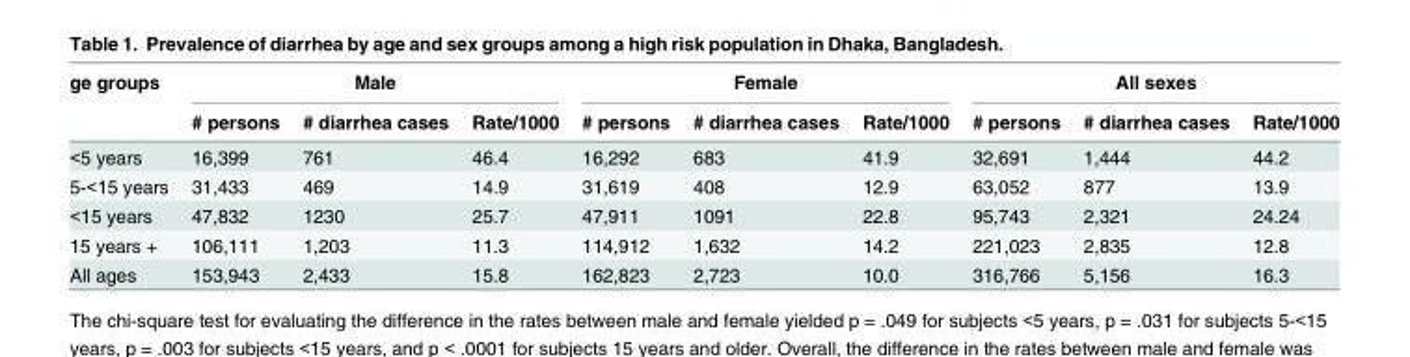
<table><thead><tr><td rowspan="2">ge groups</td><td colspan="3">Male</td><td colspan="3">Female</td><td colspan="3">All sexes</td></tr><tr><td># persons</td><td># diarrhea cases</td><td>Rate/1000</td><td># persons</td><td># diarrhea cases</td><td>Rate/1000</td><td># persons</td><td># diarrhea cases</td><td>Rate/1000</td></tr></thead><tbody><tr><td>&lt;5 years</td><td>16,399</td><td>761</td><td>46.4</td><td>16,292</td><td>683</td><td>41.9</td><td>32,691</td><td>1,444</td><td>44.2</td></tr><tr><td>5-&lt;15 years</td><td>31,433</td><td>469</td><td>14.9</td><td>31,619</td><td>408</td><td>12.9</td><td>63,052</td><td>877</td><td>13.9</td></tr><tr><td>&lt;15 years</td><td>47,832</td><td>1230</td><td>25.7</td><td>47,911</td><td>1091</td><td>22.8</td><td>95,743</td><td>2,321</td><td>24.24</td></tr><tr><td>15 years +</td><td>106,111</td><td>1,203</td><td>11.3</td><td>114,912</td><td>1,632</td><td>14.2</td><td>221,023</td><td>2,835</td><td>12.8</td></tr><tr><td>All ages</td><td>153,943</td><td>2,433</td><td>15.8</td><td>162,823</td><td>2,723</td><td>10.0</td><td>316,766</td><td>5,156</td><td>16.3</td></tr></tbody></table>